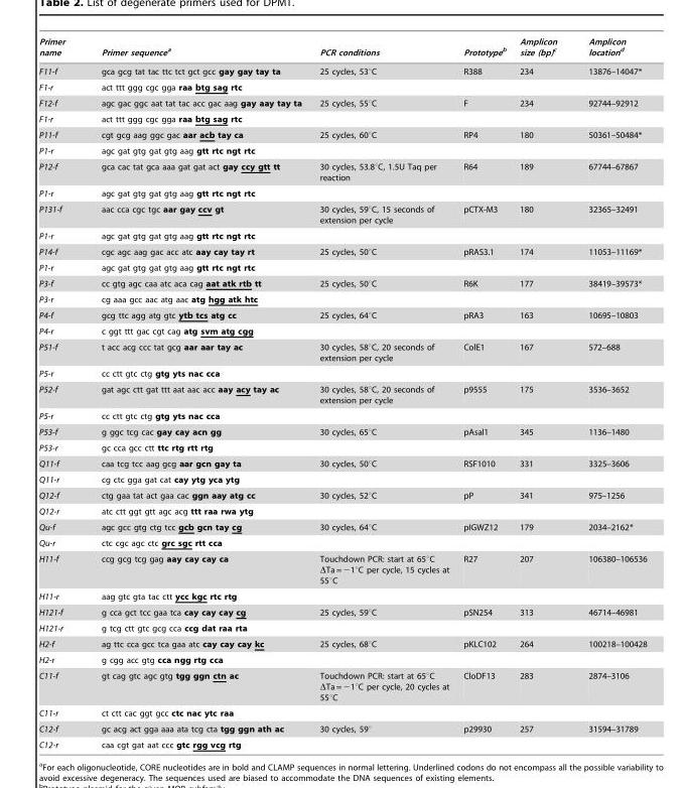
<table><thead><tr><td>Primer name</td><td>Primer sequencea</td><td>PCR conditions</td><td>Prototypeb</td><td>Amplicon size (bp)c</td><td>Amplicon locationd</td></tr></thead><tbody><tr><td>F11-f</td><td>gca gcg tat tac ttc tct gct gcc gay gay tay ta</td><td>25 cycles, 53°C</td><td>R388</td><td>234</td><td>13876–14047*</td></tr><tr><td>F1-r</td><td>act ttt ggg cgc gga raa btg sag rtc</td><td></td><td></td><td></td><td></td></tr><tr><td>F12-f</td><td>agc gac ggc aat tat tac acc gac aag gay aay tay ta</td><td>25 cycles, 55°C</td><td>F</td><td>234</td><td>92744–92912</td></tr><tr><td>F1-r</td><td>act ttt ggg cgc gga raa btg sag rtc</td><td></td><td></td><td></td><td></td></tr><tr><td>P11-f</td><td>cgt gcg aag ggc gac aar acb tay ca</td><td>25 cycles, 60°C</td><td>RP4</td><td>180</td><td>50361–50484*</td></tr><tr><td>P1-r</td><td>agc gat gtg gat gtg aag gtt rtc ngt rtc</td><td></td><td></td><td></td><td></td></tr><tr><td>P12-f</td><td>gca cac tat gca aaa gat gat act gay ccy gtt tt</td><td>30 cycles, 53.8°C, 1.5U Taq per reaction</td><td>R64</td><td>189</td><td>67744–67867</td></tr><tr><td>P1-r</td><td>agc gat gtg gat gtg aag gtt rtc ngt rtc</td><td></td><td></td><td></td><td></td></tr><tr><td>P131-f</td><td>aac cca cgc tgc aar gay ccv gt</td><td>30 cycles, 59°C, 15 seconds of extension per cycle</td><td>pCTX-M3</td><td>180</td><td>32365–32491</td></tr><tr><td>P1-r</td><td>agc gat gtg gat gtg aag gtt rtc ngt rtc</td><td></td><td></td><td></td><td></td></tr><tr><td>P14-f</td><td>cgc agc aag gac acc atc aay cay tay rt</td><td>25 cycles, 50°C</td><td>pRAS3.1</td><td>174</td><td>11053–11169*</td></tr><tr><td>P1-r</td><td>agc gat gtg gat gtg aag gtt rtc ngt rtc</td><td></td><td></td><td></td><td></td></tr><tr><td>P3-f</td><td>cc gtg agc caa atc aca cag aat atk rtb tt</td><td>25 cycles, 50°C</td><td>R6K</td><td>177</td><td>38419–39573*</td></tr><tr><td>P3-r</td><td>cg aaa gcc aac atg aac atg hgg atk htc</td><td></td><td></td><td></td><td></td></tr><tr><td>P4-f</td><td>gcg ttc agg atg gtc ytb tcs atg cc</td><td>25 cycles, 64°C</td><td>pRA3</td><td>163</td><td>10695–10803</td></tr><tr><td>P4-r</td><td>c ggt ttt gac cgt cag atg svm atg cgg</td><td></td><td></td><td></td><td></td></tr><tr><td>P51-f</td><td>t acc acg ccc tat gcg aar aar tay ac</td><td>30 cycles, 58°C, 20 seconds of extension per cycle</td><td>ColE1</td><td>167</td><td>572–688</td></tr><tr><td>P5-r</td><td>cc ctt gtc ctg gtg yts nac cca</td><td></td><td></td><td></td><td></td></tr><tr><td>P52-f</td><td>gat agc ctt gat ttt aat aac acc aay acy tay ac</td><td>30 cycles, 58°C, 20 seconds of extension per cycle</td><td>p9555</td><td>175</td><td>3536–3652</td></tr><tr><td>P5-r</td><td>cc ctt gtc ctg gtg yts nac cca</td><td></td><td></td><td></td><td></td></tr><tr><td>P53-f</td><td>g ggc tcg cac gay cay acn gg</td><td>30 cycles, 65°C</td><td>pAsal1</td><td>345</td><td>1136–1480</td></tr><tr><td>P53-r</td><td>gc cca gcc ctt ttc rtg rtt rtg</td><td></td><td></td><td></td><td></td></tr><tr><td>Q11-f</td><td>caa tcg tcc aag gcg aar gcn gay ta</td><td>30 cycles, 50°C</td><td>RSF1010</td><td>331</td><td>3325–3606</td></tr><tr><td>Q11-r</td><td>cg ctc gga gat cat cay ytg yca ytg</td><td></td><td></td><td></td><td></td></tr><tr><td>Q12-f</td><td>ctg gaa tat act gaa cac ggn aay atg cc</td><td>30 cycles, 52°C</td><td>pP</td><td>341</td><td>975–1256</td></tr><tr><td>Q12-r</td><td>atc ctt ggt gtt agc acg ttt raa rwa ytg</td><td></td><td></td><td></td><td></td></tr><tr><td>Qu-f</td><td>agc gcc gtg ctg tcc gcb gcn tay cg</td><td>30 cycles, 64°C</td><td>pIGWZ12</td><td>179</td><td>2034–2162*</td></tr><tr><td>Qu-r</td><td>ctc cgc agc ctc grc sgc rtt cca</td><td></td><td></td><td></td><td></td></tr><tr><td>H11-f</td><td>ccg gcg tcg gag aay cay cay ca</td><td>Touchdown PCR: start at 65°C ΔTa = −1°C per cycle, 15 cycles at 55°C</td><td>R27</td><td>207</td><td>106380–106536</td></tr><tr><td>H11-r</td><td>aag gtc gta tac ctt ycc kgc rtc rtg</td><td></td><td></td><td></td><td></td></tr><tr><td>H121-f</td><td>g cca gct tcc gaa tca cay cay cay cg</td><td>25 cycles, 59°C</td><td>pSN254</td><td>313</td><td>46714–46981</td></tr><tr><td>H121-r</td><td>g tcg ctt gtc gcg cca ccg dat raa rta</td><td></td><td></td><td></td><td></td></tr><tr><td>H2-f</td><td>ag ttc cca gcc tca gaa atc cay cay cay kc</td><td>25 cycles, 68°C</td><td>pKLC102</td><td>264</td><td>100218–100428</td></tr><tr><td>H2-r</td><td>g cgg acc gtg cca ngg rtg cca</td><td></td><td></td><td></td><td></td></tr><tr><td>C11-f</td><td>gt cag gtc agc gtg tgg ggn ctn ac</td><td>Touchdown PCR: start at 65°C ΔTa = −1°C per cycle, 20 cycles at 55°C</td><td>CloDF13</td><td>283</td><td>2874–3106</td></tr><tr><td>C11-r</td><td>ct ctt cac ggt gcc ctc nac ytc raa</td><td></td><td></td><td></td><td></td></tr><tr><td>C12-f</td><td>gc acg act gga aaa ata tcg cta tgg ggn ath ac</td><td>30 cycles, 59°</td><td>p29930</td><td>257</td><td>31594–31789</td></tr><tr><td>C12-r</td><td>caa cgt gat aat ccc gtc rgg vcg rtg</td><td></td><td></td><td></td><td></td></tr></tbody></table>